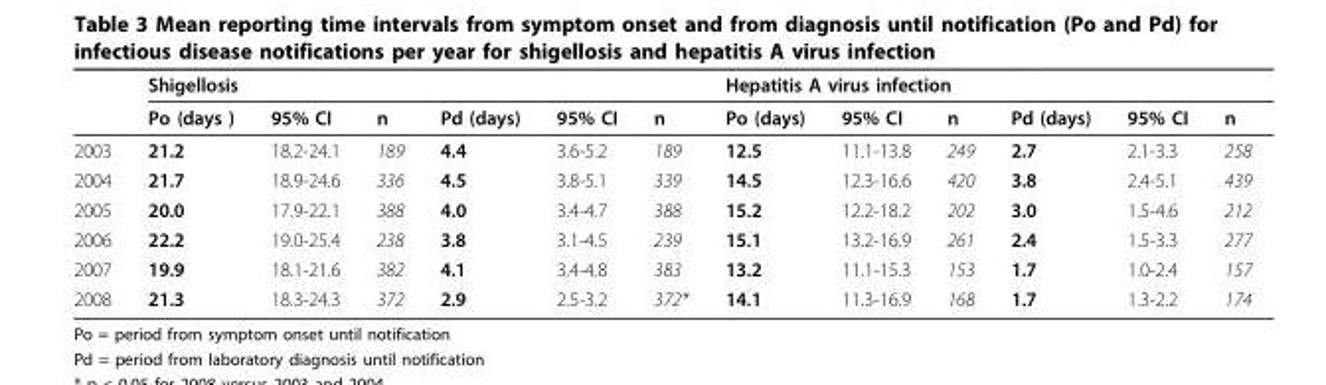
<table><thead><tr><td rowspan="2"></td><td colspan="6">Shigellosis</td><td colspan="6">Hepatitis A virus infection</td></tr><tr><td>Po (days )</td><td>95% CI</td><td>n</td><td>Pd (days)</td><td>95% CI</td><td>n</td><td>Po (days)</td><td>95% CI</td><td>n</td><td>Pd (days)</td><td>95% CI</td><td>n</td></tr></thead><tbody><tr><td>2003</td><td>21.2</td><td>18.2-24.1</td><td>189</td><td>4.4</td><td>3.6-5.2</td><td>189</td><td>12.5</td><td>11.1-13.8</td><td>249</td><td>2.7</td><td>2.1-3.3</td><td>258</td></tr><tr><td>2004</td><td>21.7</td><td>18.9-24.6</td><td>336</td><td>4.5</td><td>3.8-5.1</td><td>339</td><td>14.5</td><td>12.3-16.6</td><td>420</td><td>3.8</td><td>2.4-5.1</td><td>439</td></tr><tr><td>2005</td><td>20.0</td><td>17.9-22.1</td><td>388</td><td>4.0</td><td>3.4-4.7</td><td>388</td><td>15.2</td><td>12.2-18.2</td><td>202</td><td>3.0</td><td>1.5-4.6</td><td>212</td></tr><tr><td>2006</td><td>22.2</td><td>19.0-25.4</td><td>238</td><td>3.8</td><td>3.1-4.5</td><td>239</td><td>15.1</td><td>13.2-16.9</td><td>261</td><td>2.4</td><td>1.5-3.3</td><td>277</td></tr><tr><td>2007</td><td>19.9</td><td>18.1-21.6</td><td>382</td><td>4.1</td><td>3.4-4.8</td><td>383</td><td>13.2</td><td>11.1-15.3</td><td>153</td><td>1.7</td><td>1.0-2.4</td><td>157</td></tr><tr><td>2008</td><td>21.3</td><td>18.3-24.3</td><td>372</td><td>2.9</td><td>2.5-3.2</td><td>372*</td><td>14.1</td><td>11.3-16.9</td><td>168</td><td>1.7</td><td>1.3-2.2</td><td>174</td></tr></tbody></table>